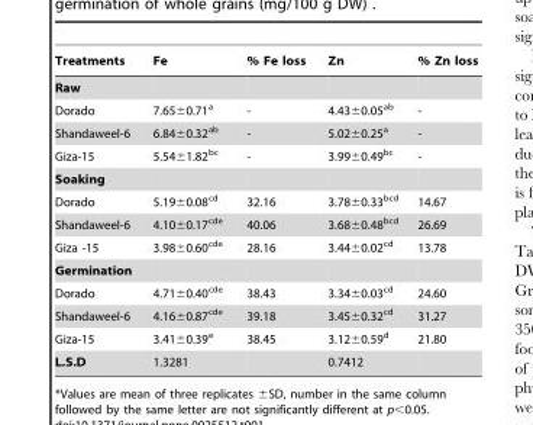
<table><thead><tr><td>Treatments</td><td>Fe</td><td>% Fe loss</td><td>Zn</td><td>% Zn loss</td></tr></thead><tbody><tr><td colspan="5">Raw</td></tr><tr><td>Dorado</td><td>7.65±0.71<sup>a</sup></td><td>-</td><td>4.43±0.05<sup>ab</sup></td><td>-</td></tr><tr><td>Shandaweel-6</td><td>6.84±0.32<sup>ab</sup></td><td>-</td><td>5.02±0.25<sup>a</sup></td><td>-</td></tr><tr><td>Giza-15</td><td>5.54±1.82<sup>bc</sup></td><td>-</td><td>3.99±0.49<sup>bc</sup></td><td>-</td></tr><tr><td colspan="5">Soaking</td></tr><tr><td>Dorado</td><td>5.19±0.08<sup>cd</sup></td><td>32.16</td><td>3.78±0.33<sup>bcd</sup></td><td>14.67</td></tr><tr><td>Shandaweel-6</td><td>4.10±0.17<sup>cde</sup></td><td>40.06</td><td>3.68±0.48<sup>bcd</sup></td><td>26.69</td></tr><tr><td>Giza -15</td><td>3.98±0.60<sup>cde</sup></td><td>28.16</td><td>3.44±0.02<sup>cd</sup></td><td>13.78</td></tr><tr><td colspan="5">Germination</td></tr><tr><td>Dorado</td><td>4.71±0.40<sup>cde</sup></td><td>38.43</td><td>3.34±0.03<sup>cd</sup></td><td>24.60</td></tr><tr><td>Shandaweel-6</td><td>4.16±0.87<sup>cde</sup></td><td>39.18</td><td>3.45±0.32<sup>cd</sup></td><td>31.27</td></tr><tr><td>Giza-15</td><td>3.41±0.39<sup>e</sup></td><td>38.45</td><td>3.12±0.59<sup>d</sup></td><td>21.80</td></tr><tr><td>L.S.D</td><td>1.3281</td><td></td><td>0.7412</td><td></td></tr></tbody></table>